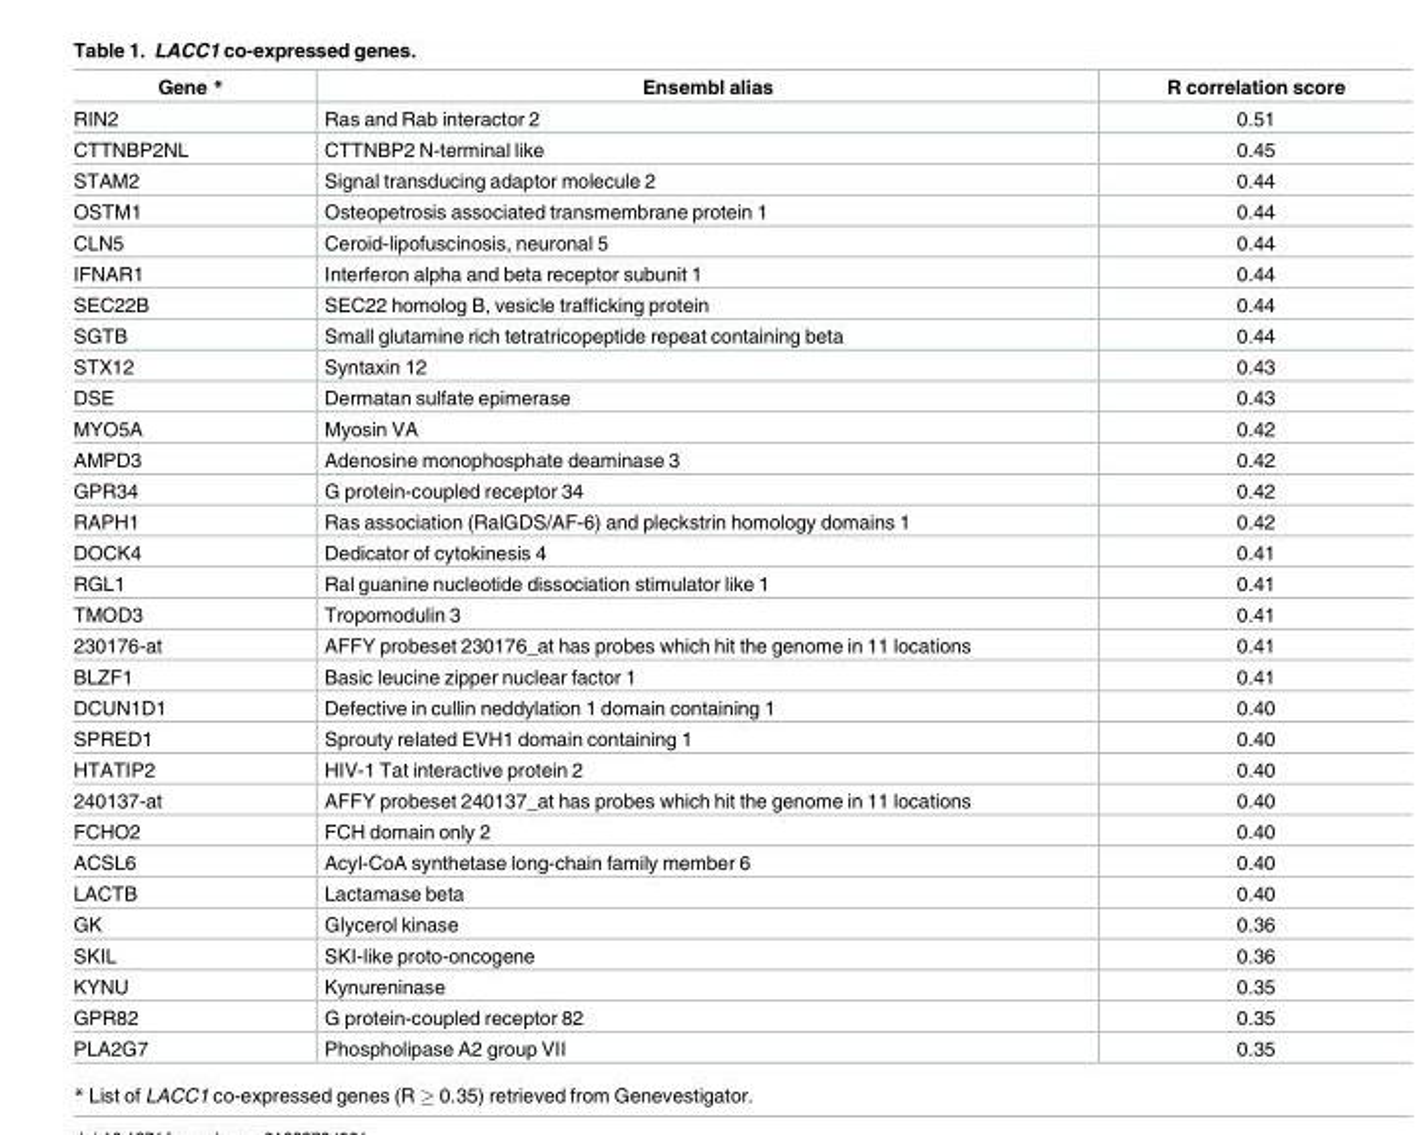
<table><thead><tr><td>Gene *</td><td>Ensembl alias</td><td>R correlation score</td></tr></thead><tbody><tr><td>RIN2</td><td>Ras and Rab interactor 2</td><td>0.51</td></tr><tr><td>CTTNBP2NL</td><td>CTTNBP2 N-terminal like</td><td>0.45</td></tr><tr><td>STAM2</td><td>Signal transducing adaptor molecule 2</td><td>0.44</td></tr><tr><td>OSTM1</td><td>Osteopetrosis associated transmembrane protein 1</td><td>0.44</td></tr><tr><td>CLN5</td><td>Ceroid-lipofuscinosis, neuronal 5</td><td>0.44</td></tr><tr><td>IFNAR1</td><td>Interferon alpha and beta receptor subunit 1</td><td>0.44</td></tr><tr><td>SEC22B</td><td>SEC22 homolog B, vesicle trafficking protein</td><td>0.44</td></tr><tr><td>SGTB</td><td>Small glutamine rich tetratricopeptide repeat containing beta</td><td>0.44</td></tr><tr><td>STX12</td><td>Syntaxin 12</td><td>0.43</td></tr><tr><td>DSE</td><td>Dermatan sulfate epimerase</td><td>0.43</td></tr><tr><td>MYO5A</td><td>Myosin VA</td><td>0.42</td></tr><tr><td>AMPD3</td><td>Adenosine monophosphate deaminase 3</td><td>0.42</td></tr><tr><td>GPR34</td><td>G protein-coupled receptor 34</td><td>0.42</td></tr><tr><td>RAPH1</td><td>Ras association (RalGDS/AF-6) and pleckstrin homology domains 1</td><td>0.42</td></tr><tr><td>DOCK4</td><td>Dedicator of cytokinesis 4</td><td>0.41</td></tr><tr><td>RGL1</td><td>Ral guanine nucleotide dissociation stimulator like 1</td><td>0.41</td></tr><tr><td>TMOD3</td><td>Tropomodulin 3</td><td>0.41</td></tr><tr><td>230176-at</td><td>AFFY probeset 230176_at has probes which hit the genome in 11 locations</td><td>0.41</td></tr><tr><td>BLZF1</td><td>Basic leucine zipper nuclear factor 1</td><td>0.41</td></tr><tr><td>DCUN1D1</td><td>Defective in cullin neddylation 1 domain containing 1</td><td>0.40</td></tr><tr><td>SPRED1</td><td>Sprouty related EVH1 domain containing 1</td><td>0.40</td></tr><tr><td>HTATIP2</td><td>HIV-1 Tat interactive protein 2</td><td>0.40</td></tr><tr><td>240137-at</td><td>AFFY probeset 240137_at has probes which hit the genome in 11 locations</td><td>0.40</td></tr><tr><td>FCHO2</td><td>FCH domain only 2</td><td>0.40</td></tr><tr><td>ACSL6</td><td>Acyl-CoA synthetase long-chain family member 6</td><td>0.40</td></tr><tr><td>LACTB</td><td>Lactamase beta</td><td>0.40</td></tr><tr><td>GK</td><td>Glycerol kinase</td><td>0.36</td></tr><tr><td>SKIL</td><td>SKI-like proto-oncogene</td><td>0.36</td></tr><tr><td>KYNU</td><td>Kynureninase</td><td>0.35</td></tr><tr><td>GPR82</td><td>G protein-coupled receptor 82</td><td>0.35</td></tr><tr><td>PLA2G7</td><td>Phospholipase A2 group VII</td><td>0.35</td></tr></tbody></table>